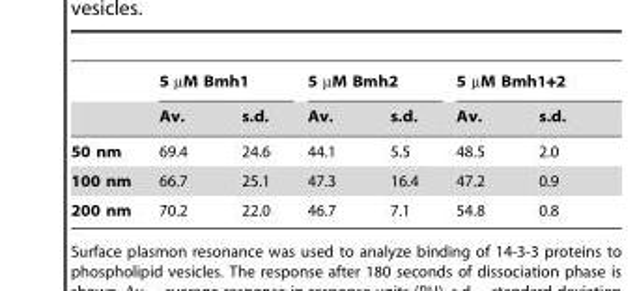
<table><thead><tr><td rowspan="2"></td><td colspan="2">5 µM Bmh1</td><td colspan="2">5 µM Bmh2</td><td colspan="2">5 µM Bmh1+2</td></tr><tr><td>Av.</td><td>s.d.</td><td>Av.</td><td>s.d.</td><td>Av.</td><td>s.d.</td></tr></thead><tbody><tr><td>50 nm</td><td>69.4</td><td>24.6</td><td>44.1</td><td>5.5</td><td>48.5</td><td>2.0</td></tr><tr><td>100 nm</td><td>66.7</td><td>25.1</td><td>47.3</td><td>16.4</td><td>47.2</td><td>0.9</td></tr><tr><td>200 nm</td><td>70.2</td><td>22.0</td><td>46.7</td><td>7.1</td><td>54.8</td><td>0.8</td></tr></tbody></table>